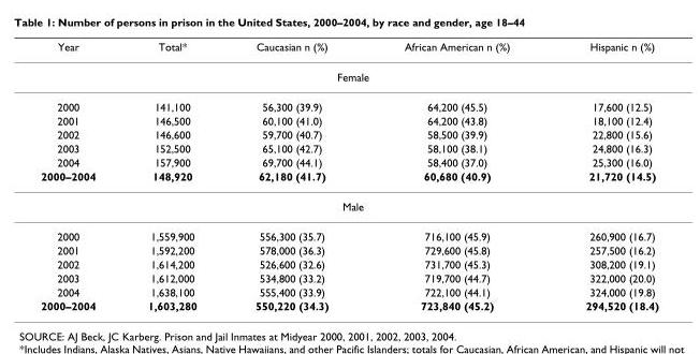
<table><thead><tr><td>Year</td><td>Total*</td><td>Caucasian n (%)</td><td>African American n (%)</td><td>Hispanic n (%)</td></tr></thead><tbody><tr><td colspan="5">Female</td></tr><tr><td>2000</td><td>141,100</td><td>56,300 (39.9)</td><td>64,200 (45.5)</td><td>17,600 (12.5)</td></tr><tr><td>2001</td><td>146,500</td><td>60,100 (41.0)</td><td>64,200 (43.8)</td><td>18,100 (12.4)</td></tr><tr><td>2002</td><td>146,600</td><td>59,700 (40.7)</td><td>58,500 (39.9)</td><td>22,800 (15.6)</td></tr><tr><td>2003</td><td>152,500</td><td>65,100 (42.7)</td><td>58,100 (38.1)</td><td>24,800 (16.3)</td></tr><tr><td>2004</td><td>157,900</td><td>69,700 (44.1)</td><td>58,400 (37.0)</td><td>25,300 (16.0)</td></tr><tr><td>2000–2004</td><td>148,920</td><td>62,180 (41.7)</td><td>60,680 (40.9)</td><td>21,720 (14.5)</td></tr><tr><td colspan="5">Male</td></tr><tr><td>2000</td><td>1,559,900</td><td>556,300 (35.7)</td><td>716,100 (45.9)</td><td>260,900 (16.7)</td></tr><tr><td>2001</td><td>1,592,200</td><td>578,000 (36.3)</td><td>729,600 (45.8)</td><td>257,500 (16.2)</td></tr><tr><td>2002</td><td>1,614,200</td><td>526,600 (32.6)</td><td>731,700 (45.3)</td><td>308,200 (19.1)</td></tr><tr><td>2003</td><td>1,612,000</td><td>534,800 (33.2)</td><td>719,700 (44.7)</td><td>322,000 (20.0)</td></tr><tr><td>2004</td><td>1,638,100</td><td>555,400 (33.9)</td><td>722,100 (44.1)</td><td>324,000 (19.8)</td></tr><tr><td>2000–2004</td><td>1,603,280</td><td>550,220 (34.3)</td><td>723,840 (45.2)</td><td>294,520 (18.4)</td></tr></tbody></table>